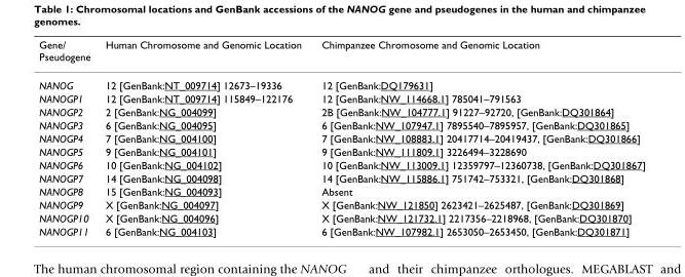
<table><thead><tr><td>Gene/ Pseudogene</td><td>Human Chromosome and Genomic Location</td><td>Chimpanzee Chromosome and Genomic Location</td></tr></thead><tbody><tr><td>NANOG</td><td>12 [GenBank:NT_009714] 12673–19336</td><td>12 [GenBank:DQ179631]</td></tr><tr><td>NANOGP1</td><td>12 [GenBank:NT_009714] 115849–122176</td><td>12 [GenBank:NW_114668.1] 785041–791563</td></tr><tr><td>NANOGP2</td><td>2 [GenBank:NG_004099]</td><td>2B [GenBank:NW_104777.1] 91227–92720, [GenBank:DQ301864]</td></tr><tr><td>NANOGP3</td><td>6 [GenBank:NG_004095]</td><td>6 [GenBank:NW_107947.1] 7895540–7895957, [GenBank:DQ301865]</td></tr><tr><td>NANOGP4</td><td>7 [GenBank:NG_004100]</td><td>7 [GenBank:NW_108883.1] 20417714–20419437, [GenBank:DQ301866]</td></tr><tr><td>NANOGP5</td><td>9 [GenBank:NG_004101]</td><td>9 [GenBank:NW_111809.1] 3226494–3228690</td></tr><tr><td>NANOGP6</td><td>10 [GenBank:NG_004102]</td><td>10 [GenBank:NW_113009.1] 12359797–12360738, [GenBank:DQ301867]</td></tr><tr><td>NANOGP7</td><td>14 [GenBank:NG_004098]</td><td>14 [GenBank:NW_115886.1] 751742–753321, [GenBank:DQ301868]</td></tr><tr><td>NANOGP8</td><td>15 [GenBank:NG_004093]</td><td>Absent</td></tr><tr><td>NANOGP9</td><td>X [GenBank:NG_004097]</td><td>X [GenBank:NW_121850] 2623421–2625487, [GenBank:DQ301869]</td></tr><tr><td>NANOGP10</td><td>X [GenBank:NG_004096]</td><td>X [GenBank:NW_121732.1] 2217356–2218968, [GenBank:DQ301870]</td></tr><tr><td>NANOGP11</td><td>6 [GenBank:NG_004103]</td><td>6 [GenBank:NW_107982.1] 2653050–2653450, [GenBank:DQ301871]</td></tr></tbody></table>